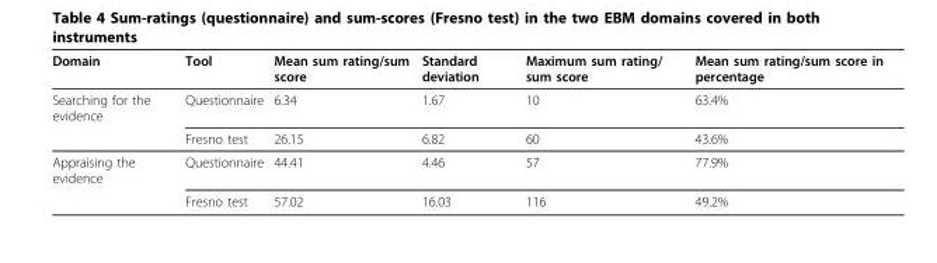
<table><thead><tr><td>Domain</td><td>Tool</td><td>Mean sum rating/sum score</td><td>Standard deviation</td><td>Maximum sum rating/ sum score</td><td>Mean sum rating/sum score in percentage</td></tr></thead><tbody><tr><td rowspan="2">Searching for the evidence</td><td>Questionnaire</td><td>6.34</td><td>1.67</td><td>10</td><td>63.4%</td></tr><tr><td>Fresno test</td><td>26.15</td><td>6.82</td><td>60</td><td>43.6%</td></tr><tr><td rowspan="2">Appraising the evidence</td><td>Questionnaire</td><td>44.41</td><td>4.46</td><td>57</td><td>77.9%</td></tr><tr><td>Fresno test</td><td>57.02</td><td>16.03</td><td>116</td><td>49.2%</td></tr></tbody></table>